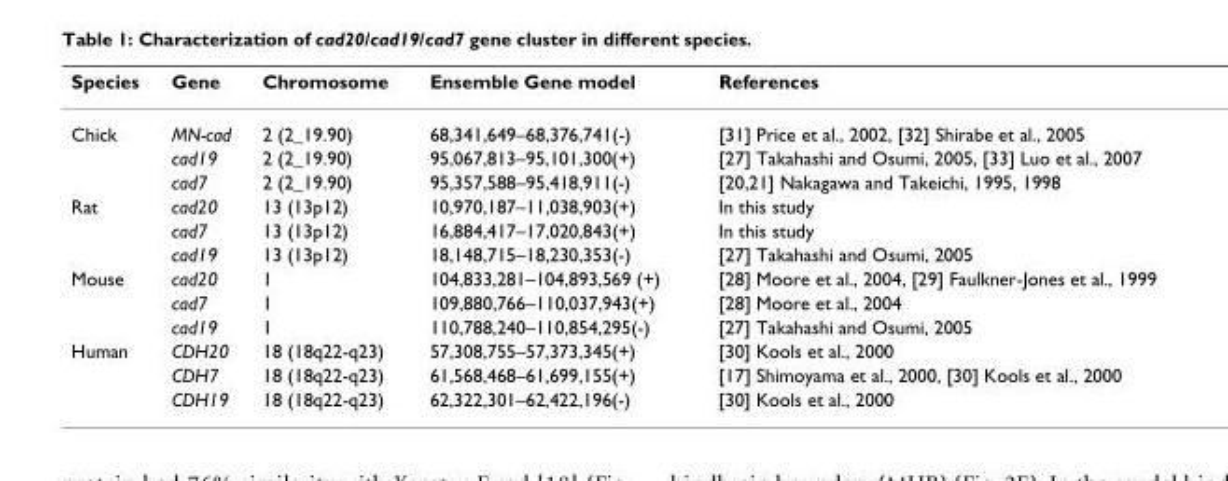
<table><thead><tr><td>Species</td><td>Gene</td><td>Chromosome</td><td>Ensemble Gene model</td><td>References</td></tr></thead><tbody><tr><td rowspan="3">Chick</td><td>MN-cad</td><td>2 (2_19.90)</td><td>68,341,649–68,376,741(-)</td><td>[31] Price et al., 2002, [32] Shirabe et al., 2005</td></tr><tr><td>cad19</td><td>2 (2_19.90)</td><td>95,067,813–95,101,300(+)</td><td>[27] Takahashi and Osumi, 2005, [33] Luo et al., 2007</td></tr><tr><td>cad7</td><td>2 (2_19.90)</td><td>95,357,588–95,418,911(-)</td><td>[20,21] Nakagawa and Takeichi, 1995, 1998</td></tr><tr><td rowspan="3">Rat</td><td>cad20</td><td>13 (13p12)</td><td>10,970,187–11,038,903(+)</td><td>In this study</td></tr><tr><td>cad7</td><td>13 (13p12)</td><td>16,884,417–17,020,843(+)</td><td>In this study</td></tr><tr><td>cad19</td><td>13 (13p12)</td><td>18,148,715–18,230,353(-)</td><td>[27] Takahashi and Osumi, 2005</td></tr><tr><td rowspan="3">Mouse</td><td>cad20</td><td>1</td><td>104,833,281–104,893,569 (+)</td><td>[28] Moore et al., 2004, [29] Faulkner-Jones et al., 1999</td></tr><tr><td>cad7</td><td>1</td><td>109,880,766–110,037,943(+)</td><td>[28] Moore et al., 2004</td></tr><tr><td>cad19</td><td>1</td><td>110,788,240–110,854,295(-)</td><td>[27] Takahashi and Osumi, 2005</td></tr><tr><td rowspan="3">Human</td><td>CDH20</td><td>18 (18q22-q23)</td><td>57,308,755–57,373,345(+)</td><td>[30] Kools et al., 2000</td></tr><tr><td>CDH7</td><td>18 (18q22-q23)</td><td>61,568,468–61,699,155(+)</td><td>[17] Shimoyama et al., 2000, [30] Kools et al., 2000</td></tr><tr><td>CDH19</td><td>18 (18q22-q23)</td><td>62,322,301–62,422,196(-)</td><td>[30] Kools et al., 2000</td></tr></tbody></table>